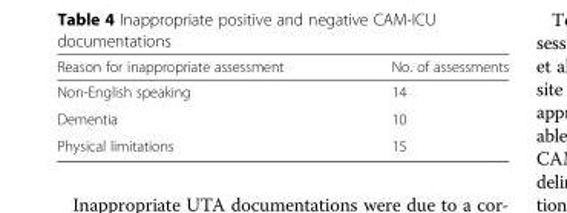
<table><thead><tr><td>Reason for inappropriate assessment</td><td>No. of assessments</td></tr></thead><tbody><tr><td>Non-English speaking</td><td>14</td></tr><tr><td>Dementia</td><td>10</td></tr><tr><td>Physical limitations</td><td>15</td></tr></tbody></table>